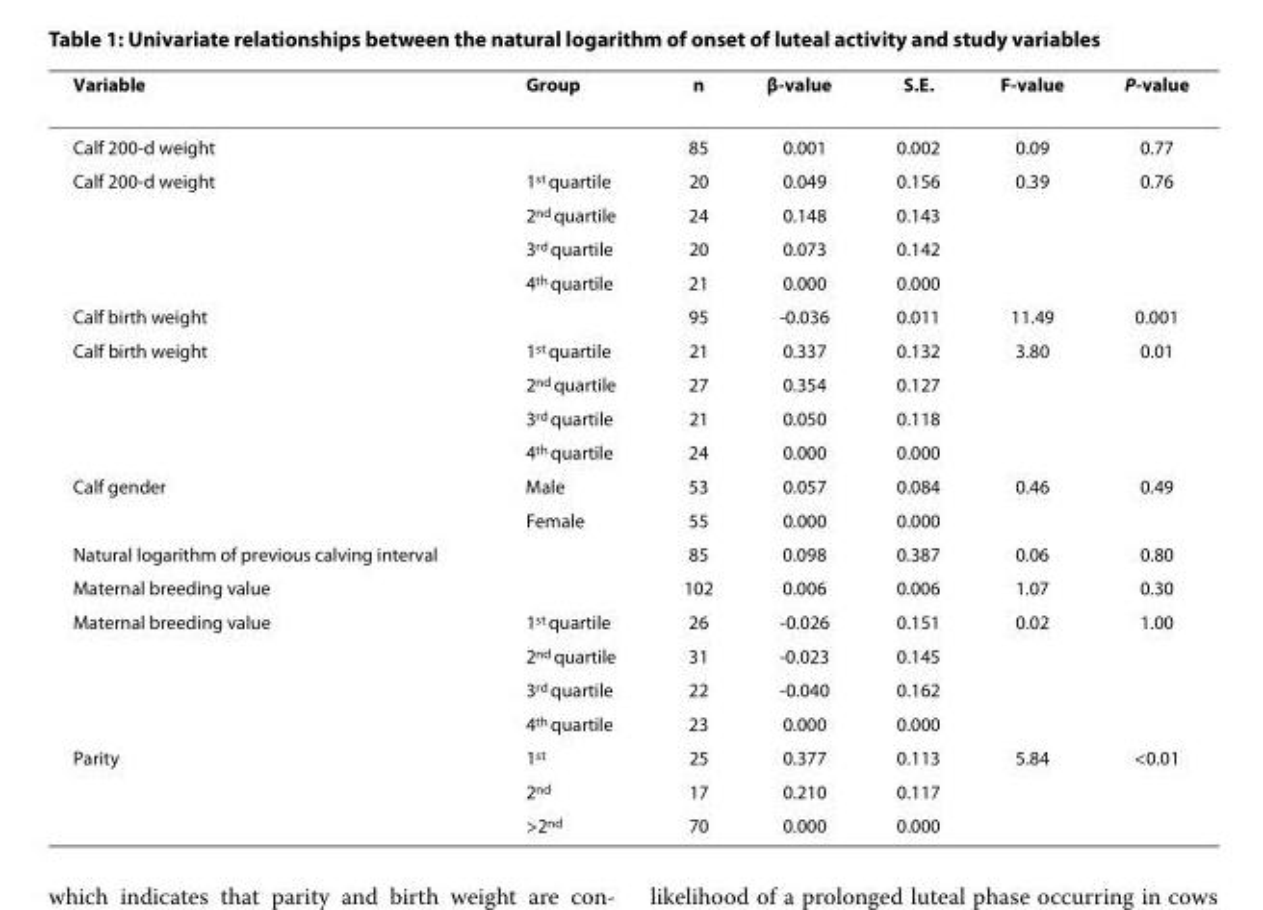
<table><thead><tr><td>Variable</td><td>Group</td><td>n</td><td>β-value</td><td>S.E.</td><td>F-value</td><td>P-value</td></tr></thead><tbody><tr><td>Calf 200-d weight</td><td></td><td>85</td><td>0.001</td><td>0.002</td><td>0.09</td><td>0.77</td></tr><tr><td rowspan="4">Calf 200-d weight</td><td>1<sup>st</sup> quartile</td><td>20</td><td>0.049</td><td>0.156</td><td>0.39</td><td>0.76</td></tr><tr><td>2<sup>nd</sup> quartile</td><td>24</td><td>0.148</td><td>0.143</td><td></td><td></td></tr><tr><td>3<sup>rd</sup> quartile</td><td>20</td><td>0.073</td><td>0.142</td><td></td><td></td></tr><tr><td>4<sup>th</sup> quartile</td><td>21</td><td>0.000</td><td>0.000</td><td></td><td></td></tr><tr><td>Calf birth weight</td><td></td><td>95</td><td>-0.036</td><td>0.011</td><td>11.49</td><td>0.001</td></tr><tr><td rowspan="4">Calf birth weight</td><td>1<sup>st</sup> quartile</td><td>21</td><td>0.337</td><td>0.132</td><td>3.80</td><td>0.01</td></tr><tr><td>2<sup>nd</sup> quartile</td><td>27</td><td>0.354</td><td>0.127</td><td></td><td></td></tr><tr><td>3<sup>rd</sup> quartile</td><td>21</td><td>0.050</td><td>0.118</td><td></td><td></td></tr><tr><td>4<sup>th</sup> quartile</td><td>24</td><td>0.000</td><td>0.000</td><td></td><td></td></tr><tr><td rowspan="2">Calf gender</td><td>Male</td><td>53</td><td>0.057</td><td>0.084</td><td>0.46</td><td>0.49</td></tr><tr><td>Female</td><td>55</td><td>0.000</td><td>0.000</td><td></td><td></td></tr><tr><td>Natural logarithm of previous calving interval</td><td></td><td>85</td><td>0.098</td><td>0.387</td><td>0.06</td><td>0.80</td></tr><tr><td>Maternal breeding value</td><td></td><td>102</td><td>0.006</td><td>0.006</td><td>1.07</td><td>0.30</td></tr><tr><td rowspan="4">Maternal breeding value</td><td>1<sup>st</sup> quartile</td><td>26</td><td>-0.026</td><td>0.151</td><td>0.02</td><td>1.00</td></tr><tr><td>2<sup>nd</sup> quartile</td><td>31</td><td>-0.023</td><td>0.145</td><td></td><td></td></tr><tr><td>3<sup>rd</sup> quartile</td><td>22</td><td>-0.040</td><td>0.162</td><td></td><td></td></tr><tr><td>4<sup>th</sup> quartile</td><td>23</td><td>0.000</td><td>0.000</td><td></td><td></td></tr><tr><td rowspan="3">Parity</td><td>1<sup>st</sup></td><td>25</td><td>0.377</td><td>0.113</td><td>5.84</td><td>&lt;0.01</td></tr><tr><td>2<sup>nd</sup></td><td>17</td><td>0.210</td><td>0.117</td><td></td><td></td></tr><tr><td>&gt;2<sup>nd</sup></td><td>70</td><td>0.000</td><td>0.000</td><td></td><td></td></tr></tbody></table>